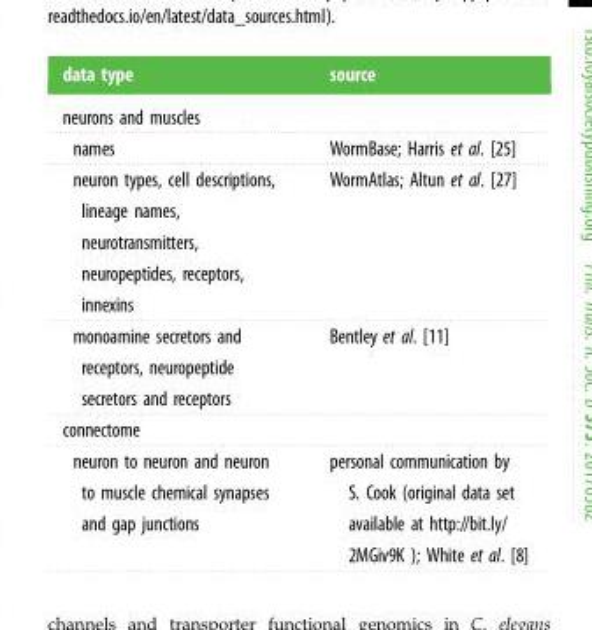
<table><thead><tr><td>data type</td><td>source</td></tr></thead><tbody><tr><td colspan="2">neurons and muscles</td></tr><tr><td>names</td><td>WormBase; Harris et al. [25]</td></tr><tr><td>neuron types, cell descriptions, lineage names, neurotransmitters, neuropeptides, receptors, innexins</td><td>WormAtlas; Altun et al. [27]</td></tr><tr><td>monoamine secretors and receptors, neuropeptide secretors and receptors</td><td>Bentley et al. [11]</td></tr><tr><td colspan="2">connectome</td></tr><tr><td>neuron to neuron and neuron to muscle chemical synapses and gap junctions</td><td>personal communication by S. Cook (original data set available at http://bit.ly/ 2MGiv9K ); White et al. [8]</td></tr></tbody></table>